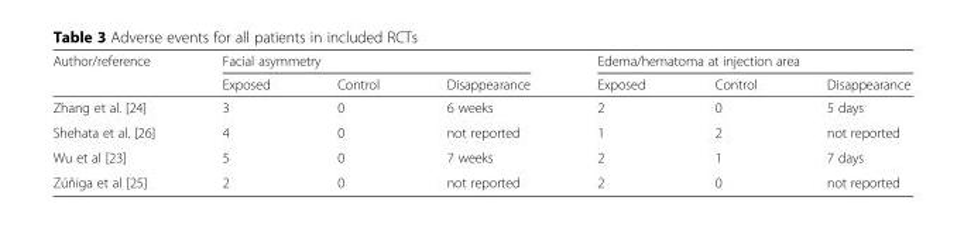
<table><thead><tr><td rowspan="2">Author/reference</td><td colspan="3">Facial asymmetry</td><td colspan="3">Edema/hematoma at injection area</td></tr><tr><td>Exposed</td><td>Control</td><td>Disappearance</td><td>Exposed</td><td>Control</td><td>Disappearance</td></tr></thead><tbody><tr><td>Zhang et al. [24]</td><td>3</td><td>0</td><td>6 weeks</td><td>2</td><td>0</td><td>5 days</td></tr><tr><td>Shehata et al. [26]</td><td>4</td><td>0</td><td>not reported</td><td>1</td><td>2</td><td>not reported</td></tr><tr><td>Wu et al [23]</td><td>5</td><td>0</td><td>7 weeks</td><td>2</td><td>1</td><td>7 days</td></tr><tr><td>Zúñiga et al [25]</td><td>2</td><td>0</td><td>not reported</td><td>2</td><td>0</td><td>not reported</td></tr></tbody></table>